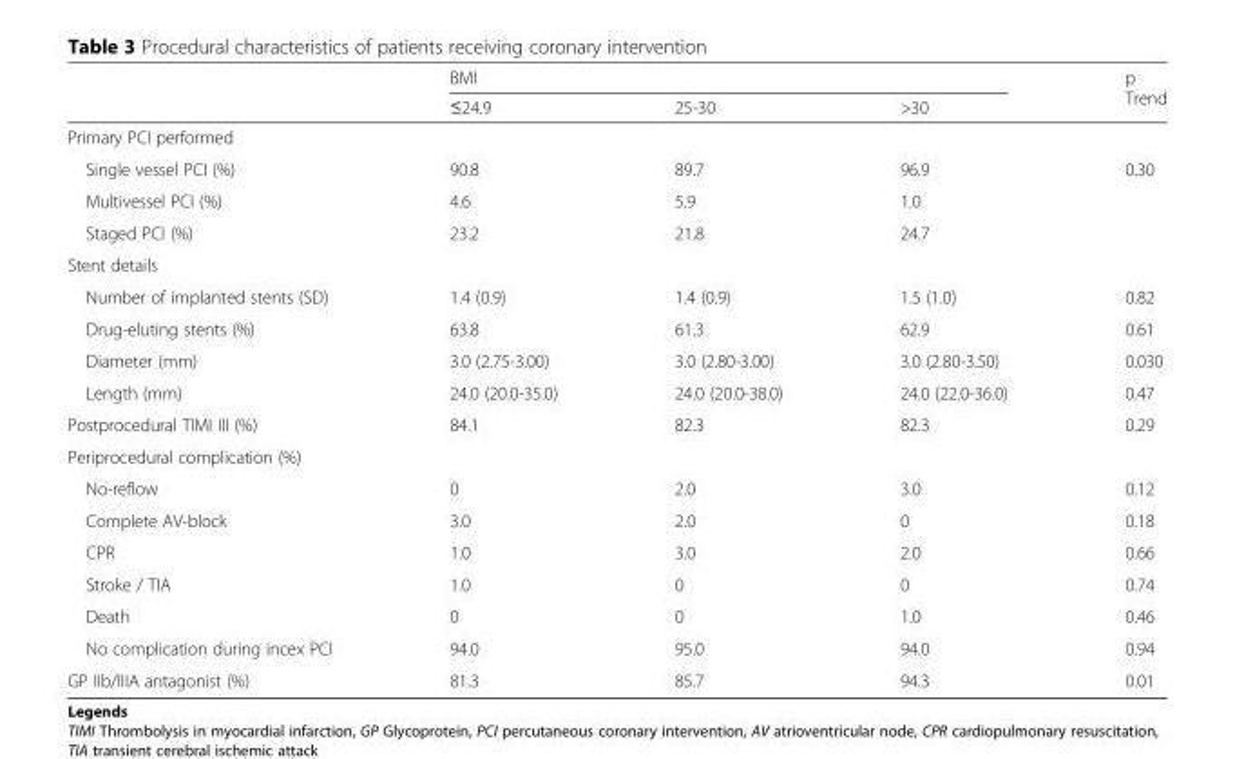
<table><thead><tr><td rowspan="2"></td><td colspan="3">BMI</td><td rowspan="2">p Trend</td></tr><tr><td>≤24.9</td><td>25-30</td><td>&gt;30</td></tr></thead><tbody><tr><td colspan="5">Primary PCI performed</td></tr><tr><td>Single vessel PCI (%)</td><td>90.8</td><td>89.7</td><td>96.9</td><td>0.30</td></tr><tr><td>Multivessel PCI (%)</td><td>4.6</td><td>5.9</td><td>1.0</td><td></td></tr><tr><td>Staged PCI (%)</td><td>23.2</td><td>21.8</td><td>24.7</td><td></td></tr><tr><td colspan="5">Stent details</td></tr><tr><td>Number of implanted stents (SD)</td><td>1.4 (0.9)</td><td>1.4 (0.9)</td><td>1.5 (1.0)</td><td>0.82</td></tr><tr><td>Drug-eluting stents (%)</td><td>63.8</td><td>61.3</td><td>62.9</td><td>0.61</td></tr><tr><td>Diameter (mm)</td><td>3.0 (2.75-3.00)</td><td>3.0 (2.80-3.00)</td><td>3.0 (2.80-3.50)</td><td>0.030</td></tr><tr><td>Length (mm)</td><td>24.0 (20.0-35.0)</td><td>24.0 (20.0-38.0)</td><td>24.0 (22.0-36.0)</td><td>0.47</td></tr><tr><td>Postprocedural TIMI III (%)</td><td>84.1</td><td>82.3</td><td>82.3</td><td>0.29</td></tr><tr><td colspan="5">Periprocedural complication (%)</td></tr><tr><td>No-reflow</td><td>0</td><td>2.0</td><td>3.0</td><td>0.12</td></tr><tr><td>Complete AV-block</td><td>3.0</td><td>2.0</td><td>0</td><td>0.18</td></tr><tr><td>CPR</td><td>1.0</td><td>3.0</td><td>2.0</td><td>0.66</td></tr><tr><td>Stroke / TIA</td><td>1.0</td><td>0</td><td>0</td><td>0.74</td></tr><tr><td>Death</td><td>0</td><td>0</td><td>1.0</td><td>0.46</td></tr><tr><td>No complication during incex PCI</td><td>94.0</td><td>95.0</td><td>94.0</td><td>0.94</td></tr><tr><td>GP IIb/IIIA antagonist (%)</td><td>81.3</td><td>85.7</td><td>94.3</td><td>0.01</td></tr></tbody></table>